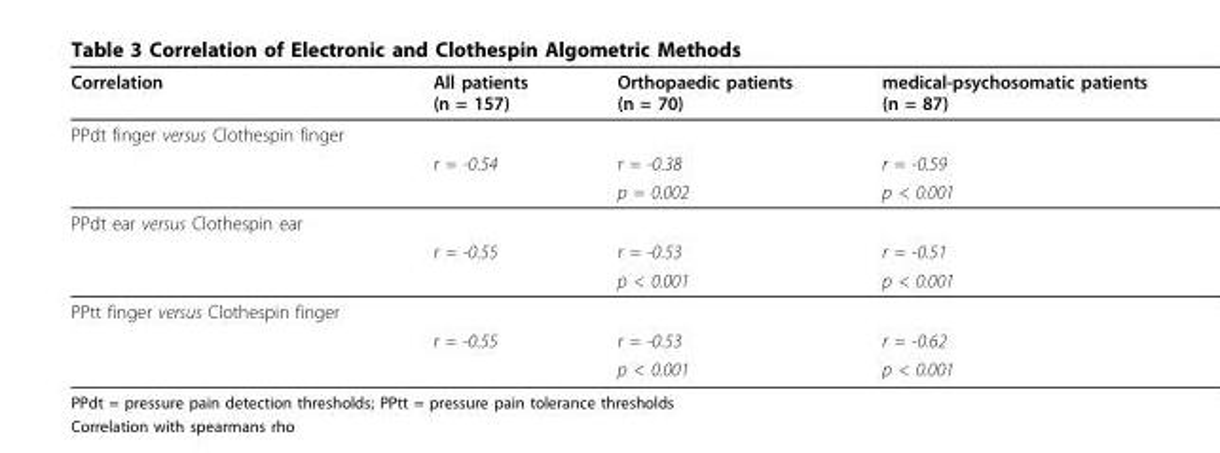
<table><thead><tr><td>Correlation</td><td>All patients (n = 157)</td><td>Orthopaedic patients (n = 70)</td><td>medical-psychosomatic patients (n = 87)</td></tr></thead><tbody><tr><td colspan="4">PPdt finger versus Clothespin finger</td></tr><tr><td></td><td>r = -0.54</td><td>r = -0.38</td><td>r = -0.59</td></tr><tr><td></td><td></td><td>p = 0.002</td><td>p &lt; 0.001</td></tr><tr><td colspan="4">PPdt ear versus Clothespin ear</td></tr><tr><td></td><td>r = -0.55</td><td>r = -0.53</td><td>r = -0.51</td></tr><tr><td></td><td></td><td>p &lt; 0.001</td><td>p &lt; 0.001</td></tr><tr><td colspan="4">PPtt finger versus Clothespin finger</td></tr><tr><td></td><td>r = -0.55</td><td>r = -0.53</td><td>r = -0.62</td></tr><tr><td></td><td></td><td>p &lt; 0.001</td><td>p &lt; 0.001</td></tr></tbody></table>